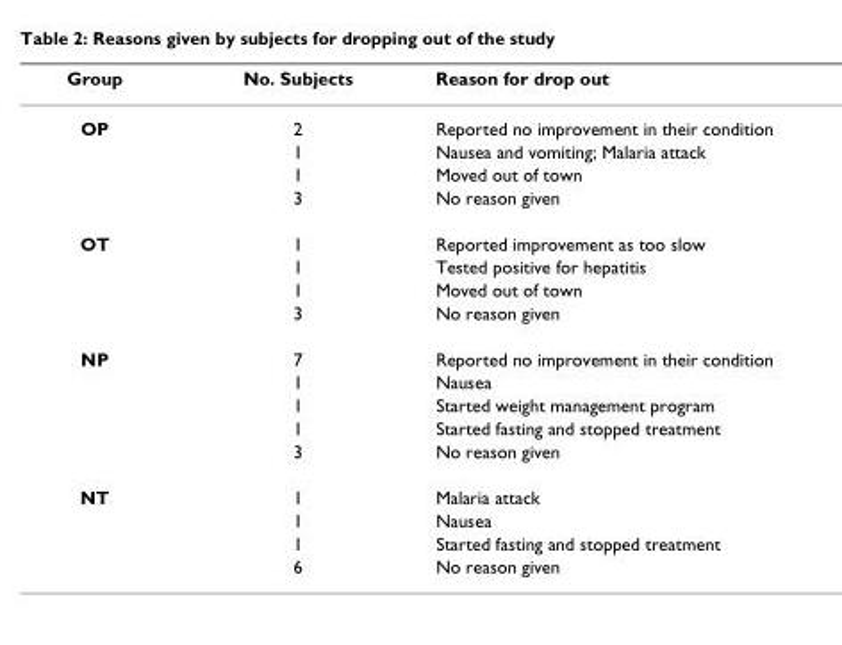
<table><thead><tr><td>Group</td><td>No. Subjects</td><td>Reason for drop out</td></tr></thead><tbody><tr><td rowspan="4">OP</td><td>2</td><td>Reported no improvement in their condition</td></tr><tr><td>1</td><td>Nausea and vomiting; Malaria attack</td></tr><tr><td>1</td><td>Moved out of town</td></tr><tr><td>3</td><td>No reason given</td></tr><tr><td rowspan="4">OT</td><td>1</td><td>Reported improvement as too slow</td></tr><tr><td>1</td><td>Tested positive for hepatitis</td></tr><tr><td>1</td><td>Moved out of town</td></tr><tr><td>3</td><td>No reason given</td></tr><tr><td rowspan="5">NP</td><td>7</td><td>Reported no improvement in their condition</td></tr><tr><td>1</td><td>Nausea</td></tr><tr><td>1</td><td>Started weight management program</td></tr><tr><td>1</td><td>Started fasting and stopped treatment</td></tr><tr><td>3</td><td>No reason given</td></tr><tr><td rowspan="4">NT</td><td>1</td><td>Malaria attack</td></tr><tr><td>1</td><td>Nausea</td></tr><tr><td>1</td><td>Started fasting and stopped treatment</td></tr><tr><td>6</td><td>No reason given</td></tr></tbody></table>